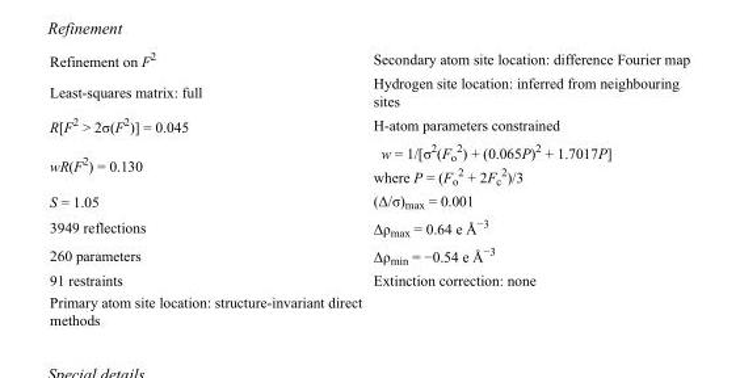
<table><tbody><tr><td>Refinement on F<sup>2</sup></td><td>Secondary atom site location: difference Fourier map</td></tr><tr><td>Least-squares matrix: full</td><td>Hydrogen site location: inferred from neighbouring sites</td></tr><tr><td>R[F<sup>2</sup> &gt; 2σ(F<sup>2</sup>)] = 0.045</td><td>H-atom parameters constrained</td></tr><tr><td>wR(F<sup>2</sup>) = 0.130</td><td>w = 1/[σ<sup>2</sup>(F<sub>o</sub> <sup>2</sup>) + (0.065P)<sup>2</sup> + 1.7017P] where P = (F<sub>o</sub> <sup>2</sup> + 2F<sub>c</sub> <sup>2</sup>)/3</td></tr><tr><td>S = 1.05</td><td>(Δ/σ)<sub>max</sub> = 0.001</td></tr><tr><td>3949 reflections</td><td>Δρ<sub>max</sub> = 0.64 e Å<sup>−3</sup></td></tr><tr><td>260 parameters</td><td>Δρ<sub>min</sub> = −0.54 e Å<sup>−3</sup></td></tr><tr><td>91 restraints</td><td>Extinction correction: none</td></tr><tr><td>Primary atom site location: structure-invariant direct methods</td><td></td></tr></tbody></table>